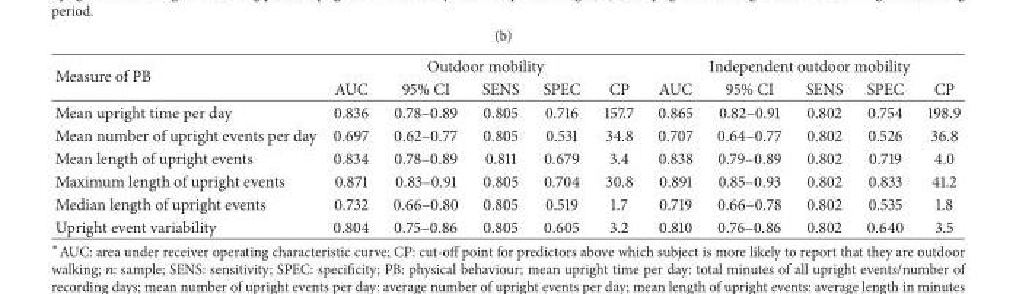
<table><thead><tr><td rowspan="2">Measure of PB</td><td colspan="5">Outdoor mobility</td><td colspan="5">Independent outdoor mobility</td></tr><tr><td>AUC</td><td>95% CI</td><td>SENS</td><td>SPEC</td><td>CP</td><td>AUC</td><td>95% CI</td><td>SENS</td><td>SPEC</td><td>CP</td></tr></thead><tbody><tr><td>Mean upright time per day</td><td>0.836</td><td>0.78–0.89</td><td>0.805</td><td>0.716</td><td>157.7</td><td>0.865</td><td>0.82–0.91</td><td>0.802</td><td>0.754</td><td>198.9</td></tr><tr><td>Mean number of upright events per day</td><td>0.697</td><td>0.62–0.77</td><td>0.805</td><td>0.531</td><td>34.8</td><td>0.707</td><td>0.64–0.77</td><td>0.802</td><td>0.526</td><td>36.8</td></tr><tr><td>Mean length of upright events</td><td>0.834</td><td>0.78–0.89</td><td>0.811</td><td>0.679</td><td>3.4</td><td>0.838</td><td>0.79–0.89</td><td>0.802</td><td>0.719</td><td>4.0</td></tr><tr><td>Maximum length of upright events</td><td>0.871</td><td>0.83–0.91</td><td>0.805</td><td>0.704</td><td>30.8</td><td>0.891</td><td>0.85–0.93</td><td>0.802</td><td>0.833</td><td>41.2</td></tr><tr><td>Median length of upright events</td><td>0.732</td><td>0.66–0.80</td><td>0.805</td><td>0.519</td><td>1.7</td><td>0.719</td><td>0.66–0.78</td><td>0.802</td><td>0.535</td><td>1.8</td></tr><tr><td>Upright event variability</td><td>0.804</td><td>0.75–0.86</td><td>0.805</td><td>0.605</td><td>3.2</td><td>0.810</td><td>0.76–0.86</td><td>0.802</td><td>0.640</td><td>3.5</td></tr></tbody></table>